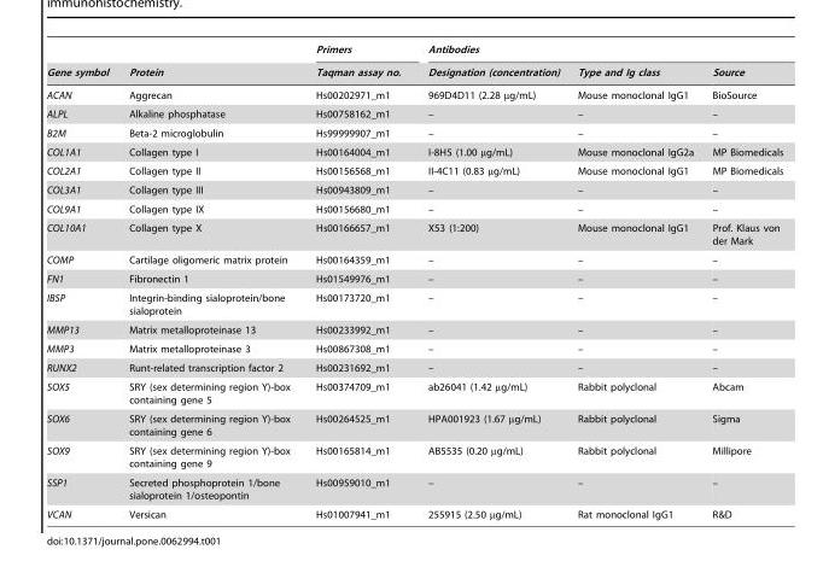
<table><thead><tr><td rowspan="2">Gene symbol</td><td rowspan="2">Protein</td><td rowspan="2">Primers Taqman assay no.</td><td colspan="3">Antibodies</td></tr><tr><td>Designation (concentration)</td><td>Type and Ig class</td><td>Source</td></tr></thead><tbody><tr><td>ACAN</td><td>Aggrecan</td><td>Hs00202971_m1</td><td>969D4D11 (2.28 µg/mL)</td><td>Mouse monoclonal IgG1</td><td>BioSource</td></tr><tr><td>ALPL</td><td>Alkaline phosphatase</td><td>Hs00758162_m1</td><td>–</td><td>–</td><td>–</td></tr><tr><td>B2M</td><td>Beta-2 microglobulin</td><td>Hs99999907_m1</td><td>–</td><td>–</td><td>–</td></tr><tr><td>COL1A1</td><td>Collagen type I</td><td>Hs00164004_m1</td><td>I-8H5 (1.00 µg/mL)</td><td>Mouse monoclonal IgG2a</td><td>MP Biomedicals</td></tr><tr><td>COL2A1</td><td>Collagen type II</td><td>Hs00156568_m1</td><td>II-4C11 (0.83 µg/mL)</td><td>Mouse monoclonal IgG1</td><td>MP Biomedicals</td></tr><tr><td>COL3A1</td><td>Collagen type III</td><td>Hs00943809_m1</td><td>–</td><td>–</td><td>–</td></tr><tr><td>COL9A1</td><td>Collagen type IX</td><td>Hs00156680_m1</td><td>–</td><td>–</td><td>–</td></tr><tr><td>COL10A1</td><td>Collagen type X</td><td>Hs00166657_m1</td><td>X53 (1:200)</td><td>Mouse monoclonal IgG1</td><td>Prof. Klaus von der Mark</td></tr><tr><td>COMP</td><td>Cartilage oligomeric matrix protein</td><td>Hs00164359_m1</td><td>–</td><td>–</td><td>–</td></tr><tr><td>FN1</td><td>Fibronectin 1</td><td>Hs01549976_m1</td><td>–</td><td>–</td><td>–</td></tr><tr><td>IBSP</td><td>Integrin-binding sialoprotein/bone sialoprotein</td><td>Hs00173720_m1</td><td>–</td><td>–</td><td>–</td></tr><tr><td>MMP13</td><td>Matrix metalloproteinase 13</td><td>Hs00233992_m1</td><td>–</td><td>–</td><td>–</td></tr><tr><td>MMP3</td><td>Matrix metalloproteinase 3</td><td>Hs00867308_m1</td><td>–</td><td>–</td><td>–</td></tr><tr><td>RUNX2</td><td>Runt-related transcription factor 2</td><td>Hs00231692_m1</td><td>–</td><td>–</td><td>–</td></tr><tr><td>SOX5</td><td>SRY (sex determining region Y)-box containing gene 5</td><td>Hs00374709_m1</td><td>ab26041 (1.42 µg/mL)</td><td>Rabbit polyclonal</td><td>Abcam</td></tr><tr><td>SOX6</td><td>SRY (sex determining region Y)-box containing gene 6</td><td>Hs00264525_m1</td><td>HPA001923 (1.67 µg/mL)</td><td>Rabbit polyclonal</td><td>Sigma</td></tr><tr><td>SOX9</td><td>SRY (sex determining region Y)-box containing gene 9</td><td>Hs00165814_m1</td><td>AB5535 (0.20 µg/mL)</td><td>Rabbit polyclonal</td><td>Millipore</td></tr><tr><td>SSP1</td><td>Secreted phosphoprotein 1/bone sialoprotein 1/osteopontin</td><td>Hs00959010_m1</td><td>–</td><td>–</td><td>–</td></tr><tr><td>VCAN</td><td>Versican</td><td>Hs01007941_m1</td><td>255915 (2.50 µg/mL)</td><td>Rat monoclonal IgG1</td><td>R&amp;D</td></tr></tbody></table>